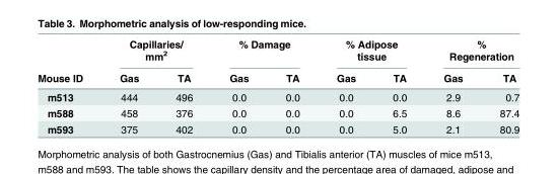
<table><thead><tr><td rowspan="2">Mouse ID</td><td colspan="2">Capillaries/ mm<sup>2</sup></td><td colspan="2">% Damage</td><td colspan="2">% Adipose tissue</td><td colspan="2">% Regeneration</td></tr><tr><td>Gas</td><td>TA</td><td>Gas</td><td>TA</td><td>Gas</td><td>TA</td><td>Gas</td><td>TA</td></tr></thead><tbody><tr><td>m513</td><td>444</td><td>496</td><td>0.0</td><td>0.0</td><td>0.0</td><td>0.0</td><td>2.9</td><td>0.7</td></tr><tr><td>m588</td><td>458</td><td>376</td><td>0.0</td><td>0.0</td><td>0.0</td><td>6.5</td><td>8.6</td><td>87.4</td></tr><tr><td>m593</td><td>375</td><td>402</td><td>0.0</td><td>0.0</td><td>0.0</td><td>5.0</td><td>2.1</td><td>80.9</td></tr></tbody></table>